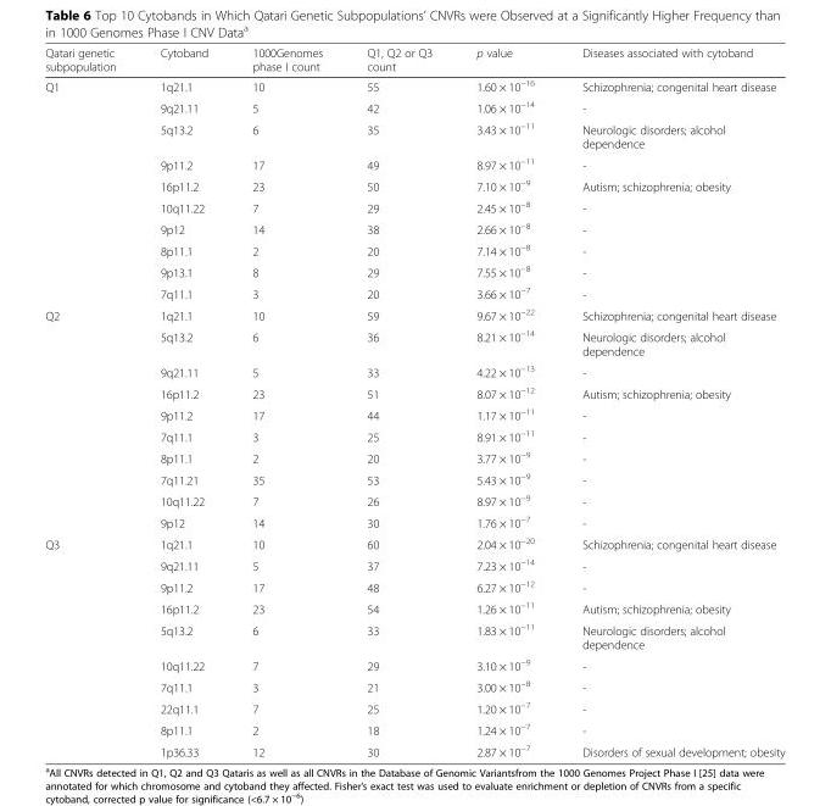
<table><thead><tr><td>Qatari genetic subpopulation</td><td>Cytoband</td><td>1000Genomes phase I count</td><td>Q1, Q2 or Q3 count</td><td>p value</td><td>Diseases associated with cytoband</td></tr></thead><tbody><tr><td rowspan="10">Q1</td><td>1q21.1</td><td>10</td><td>55</td><td>1.60 × 10<sup>−16</sup></td><td>Schizophrenia; congenital heart disease</td></tr><tr><td>9q21.11</td><td>5</td><td>42</td><td>1.06 × 10<sup>−14</sup></td><td>-</td></tr><tr><td>5q13.2</td><td>6</td><td>35</td><td>3.43 × 10<sup>−11</sup></td><td>Neurologic disorders; alcohol dependence</td></tr><tr><td>9p11.2</td><td>17</td><td>49</td><td>8.97 × 10<sup>−11</sup></td><td>-</td></tr><tr><td>16p11.2</td><td>23</td><td>50</td><td>7.10 × 10<sup>−9</sup></td><td>Autism; schizophrenia; obesity</td></tr><tr><td>10q11.22</td><td>7</td><td>29</td><td>2.45 × 10<sup>−8</sup></td><td>-</td></tr><tr><td>9p12</td><td>14</td><td>38</td><td>2.66 × 10<sup>−8</sup></td><td>-</td></tr><tr><td>8p11.1</td><td>2</td><td>20</td><td>7.14 × 10<sup>−8</sup></td><td>-</td></tr><tr><td>9p13.1</td><td>8</td><td>29</td><td>7.55 × 10<sup>−8</sup></td><td>-</td></tr><tr><td>7q11.1</td><td>3</td><td>20</td><td>3.66 × 10<sup>−7</sup></td><td>-</td></tr><tr><td rowspan="10">Q2</td><td>1q21.1</td><td>10</td><td>59</td><td>9.67 × 10<sup>−22</sup></td><td>Schizophrenia; congenital heart disease</td></tr><tr><td>5q13.2</td><td>6</td><td>36</td><td>8.21 × 10<sup>−14</sup></td><td>Neurologic disorders; alcohol dependence</td></tr><tr><td>9q21.11</td><td>5</td><td>33</td><td>4.22 × 10<sup>−13</sup></td><td>-</td></tr><tr><td>16p11.2</td><td>23</td><td>51</td><td>8.07 × 10<sup>−12</sup></td><td>Autism; schizophrenia; obesity</td></tr><tr><td>9p11.2</td><td>17</td><td>44</td><td>1.17 × 10<sup>−11</sup></td><td>-</td></tr><tr><td>7q11.1</td><td>3</td><td>25</td><td>8.91 × 10<sup>−11</sup></td><td>-</td></tr><tr><td>8p11.1</td><td>2</td><td>20</td><td>3.77 × 10<sup>−9</sup></td><td>-</td></tr><tr><td>7q11.21</td><td>35</td><td>53</td><td>5.43 × 10<sup>−9</sup></td><td>-</td></tr><tr><td>10q11.22</td><td>7</td><td>26</td><td>8.97 × 10<sup>−9</sup></td><td>-</td></tr><tr><td>9p12</td><td>14</td><td>30</td><td>1.76 × 10<sup>−7</sup></td><td>-</td></tr><tr><td rowspan="10">Q3</td><td>1q21.1</td><td>10</td><td>60</td><td>2.04 × 10<sup>−20</sup></td><td>Schizophrenia; congenital heart disease</td></tr><tr><td>9q21.11</td><td>5</td><td>37</td><td>7.23 × 10<sup>−14</sup></td><td>-</td></tr><tr><td>9p11.2</td><td>17</td><td>48</td><td>6.27 × 10<sup>−12</sup></td><td>-</td></tr><tr><td>16p11.2</td><td>23</td><td>54</td><td>1.26 × 10<sup>−11</sup></td><td>Autism; schizophrenia; obesity</td></tr><tr><td>5q13.2</td><td>6</td><td>33</td><td>1.83 × 10<sup>−11</sup></td><td>Neurologic disorders; alcohol dependence</td></tr><tr><td>10q11.22</td><td>7</td><td>29</td><td>3.10 × 10<sup>−9</sup></td><td>-</td></tr><tr><td>7q11.1</td><td>3</td><td>21</td><td>3.00 × 10<sup>−8</sup></td><td>-</td></tr><tr><td>22q11.1</td><td>7</td><td>25</td><td>1.20 × 10<sup>−7</sup></td><td>-</td></tr><tr><td>8p11.1</td><td>2</td><td>18</td><td>1.24 × 10<sup>−7</sup></td><td>-</td></tr><tr><td>1p36.33</td><td>12</td><td>30</td><td>2.87 × 10<sup>−7</sup></td><td>Disorders of sexual development; obesity</td></tr></tbody></table>